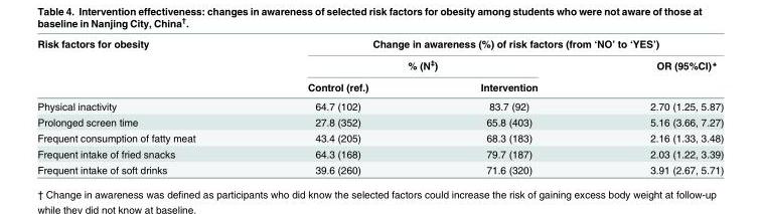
<table><thead><tr><td rowspan="3">Risk factors for obesity</td><td colspan="3">Change in awareness (%) of risk factors (from ‘NO’ to ‘YES’)</td></tr><tr><td colspan="2">% (N<sup>‡</sup>)</td><td rowspan="2">OR (95%CI)*</td></tr><tr><td>Control (ref.)</td><td>Intervention</td></tr></thead><tbody><tr><td>Physical inactivity</td><td>64.7 (102)</td><td>83.7 (92)</td><td>2.70 (1.25, 5.87)</td></tr><tr><td>Prolonged screen time</td><td>27.8 (352)</td><td>65.8 (403)</td><td>5.16 (3.66, 7.27)</td></tr><tr><td>Frequent consumption of fatty meat</td><td>43.4 (205)</td><td>68.3 (183)</td><td>2.16 (1.33, 3.48)</td></tr><tr><td>Frequent intake of fried snacks</td><td>64.3 (168)</td><td>79.7 (187)</td><td>2.03 (1.22, 3.39)</td></tr><tr><td>Frequent intake of soft drinks</td><td>39.6 (260)</td><td>71.6 (320)</td><td>3.91 (2.67, 5.71)</td></tr></tbody></table>